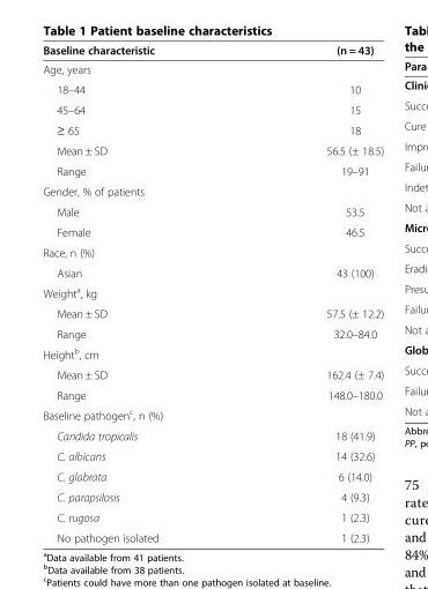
<table><thead><tr><td>Baseline characteristic</td><td>(n = 43)</td></tr></thead><tbody><tr><td colspan="2">Age, years</td></tr><tr><td>18–44</td><td>10</td></tr><tr><td>45–64</td><td>15</td></tr><tr><td>≥ 65</td><td>18</td></tr><tr><td>Mean ± SD</td><td>56.5 (± 18.5)</td></tr><tr><td>Range</td><td>19–91</td></tr><tr><td colspan="2">Gender, % of patients</td></tr><tr><td>Male</td><td>53.5</td></tr><tr><td>Female</td><td>46.5</td></tr><tr><td colspan="2">Race, n (%)</td></tr><tr><td>Asian</td><td>43 (100)</td></tr><tr><td colspan="2">Weight<sup>a</sup>, kg</td></tr><tr><td>Mean ± SD</td><td>57.5 (± 12.2)</td></tr><tr><td>Range</td><td>32.0–84.0</td></tr><tr><td colspan="2">Height<sup>b</sup>, cm</td></tr><tr><td>Mean ± SD</td><td>162.4 (± 7.4)</td></tr><tr><td>Range</td><td>148.0–180.0</td></tr><tr><td colspan="2">Baseline pathogen<sup>c</sup>, n (%)</td></tr><tr><td>Candida tropicalis</td><td>18 (41.9)</td></tr><tr><td>C. albicans</td><td>14 (32.6)</td></tr><tr><td>C. glabrata</td><td>6 (14.0)</td></tr><tr><td>C. parapsilosis</td><td>4 (9.3)</td></tr><tr><td>C. rugosa</td><td>1 (2.3)</td></tr><tr><td>No pathogen isolated</td><td>1 (2.3)</td></tr></tbody></table>